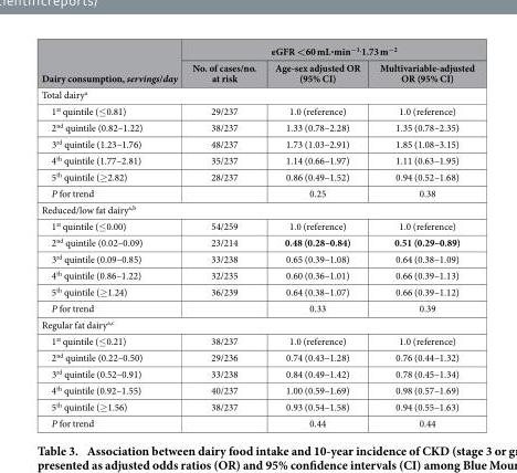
<table><thead><tr><td rowspan="2">Dairy consumption, servings/day</td><td colspan="3">eGFR &lt;60 mL·min<sup>−1.</sup>1.73 m<sup>−2</sup></td></tr><tr><td>No. of cases/no. at risk</td><td>Age-sex adjusted OR (95% CI)</td><td>Multivariable-adjusted OR (95% CI)</td></tr></thead><tbody><tr><td colspan="4">Total dairy<sup>a</sup></td></tr><tr><td>1<sup>st</sup> quintile (≤ 0.81)</td><td>29/237</td><td>1.0 (reference)</td><td>1.0 (reference)</td></tr><tr><td>2<sup>nd</sup> quintile (0.82–1.22)</td><td>38/237</td><td>1.33 (0.78–2.28)</td><td>1.35 (0.78–2.35)</td></tr><tr><td>3<sup>rd</sup> quintile (1.23–1.76)</td><td>48/237</td><td>1.73 (1.03–2.91)</td><td>1.85 (1.08–3.15)</td></tr><tr><td>4<sup>th</sup> quintile (1.77–2.81)</td><td>35/237</td><td>1.14 (0.66–1.97)</td><td>1.11 (0.63–1.95)</td></tr><tr><td>5<sup>th</sup> quintile (≥ 2.82)</td><td>28/237</td><td>0.86 (0.49–1.52)</td><td>0.94 (0.52–1.68)</td></tr><tr><td>P for trend</td><td></td><td>0.25</td><td>0.38</td></tr><tr><td colspan="4">Reduced/low fat dairya,<sup>b</sup></td></tr><tr><td>1<sup>st</sup> quintile (≤ 0.00)</td><td>54/259</td><td>1.0 (reference)</td><td>1.0 (reference)</td></tr><tr><td>2<sup>nd</sup> quintile (0.02–0.09)</td><td>23/214</td><td>0.48 (0.28–0.84)</td><td>0.51 (0.29–0.89)</td></tr><tr><td>3<sup>rd</sup> quintile (0.09–0.85)</td><td>33/238</td><td>0.65 (0.39–1.08)</td><td>0.64 (0.38–1.09)</td></tr><tr><td>4<sup>th</sup> quintile (0.86–1.22)</td><td>32/235</td><td>0.60 (0.36–1.01)</td><td>0.66 (0.39–1.13)</td></tr><tr><td>5<sup>th</sup> quintile (≥ 1.24)</td><td>36/239</td><td>0.64 (0.38–1.07)</td><td>0.66 (0.39–1.12)</td></tr><tr><td>P for trend</td><td></td><td>0.33</td><td>0.39</td></tr><tr><td colspan="4">Regular fat dairya,<sup>c</sup></td></tr><tr><td>1<sup>st</sup> quintile (≤ 0.21)</td><td>38/237</td><td>1.0 (reference)</td><td>1.0 (reference)</td></tr><tr><td>2<sup>nd</sup> quintile (0.22–0.50)</td><td>29/236</td><td>0.74 (0.43–1.28)</td><td>0.76 (0.44–1.32)</td></tr><tr><td>3<sup>rd</sup> quintile (0.52–0.91)</td><td>33/238</td><td>0.84 (0.49–1.42)</td><td>0.78 (0.45–1.34)</td></tr><tr><td>4<sup>th</sup> quintile (0.92–1.55)</td><td>40/237</td><td>1.00 (0.59–1.69)</td><td>0.98 (0.57–1.69)</td></tr><tr><td>5<sup>th</sup> quintile (≥ 1.56)</td><td>38/237</td><td>0.93 (0.54–1.58)</td><td>0.94 (0.55–1.63)</td></tr><tr><td>P for trend</td><td></td><td>0.44</td><td>0.44</td></tr></tbody></table>